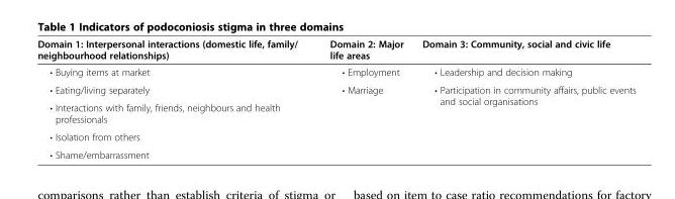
<table><thead><tr><td>Domain 1: Interpersonal interactions (domestic life, family/ neighbourhood relationships)</td><td>Domain 2: Major life areas</td><td>Domain 3: Community, social and civic life</td></tr></thead><tbody><tr><td>• Buying items at market</td><td>• Employment</td><td>• Leadership and decision making</td></tr><tr><td>• Eating/living separately</td><td>• Marriage</td><td rowspan="3">• Participation in community affairs, public events and social organisations</td></tr><tr><td>• Interactions with family, friends, neighbours and health professionals</td><td rowspan="2"></td></tr><tr><td>• Isolation from others</td></tr><tr><td>• Shame/embarrassment</td><td></td><td></td></tr></tbody></table>